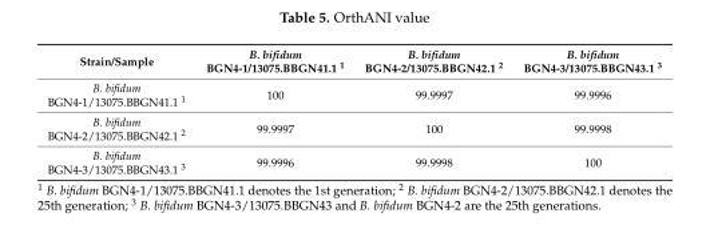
<table><thead><tr><td>Strain/Sample</td><td>B. bifidum BGN4-1/13075.BBGN41.1 <sup>1</sup></td><td>B. bifidum BGN4-2/13075.BBGN42.1 <sup>2</sup></td><td>B. bifidum BGN4-3/13075.BBGN43.1 <sup>3</sup></td></tr></thead><tbody><tr><td>B. bifidum BGN4-1/13075.BBGN41.1 <sup>1</sup></td><td>100</td><td>99.9997</td><td>99.9996</td></tr><tr><td>B. bifidum BGN4-2/13075.BBGN42.1 <sup>2</sup></td><td>99.9997</td><td>100</td><td>99.9998</td></tr><tr><td>B. bifidum BGN4-3/13075.BBGN43.1 <sup>3</sup></td><td>99.9996</td><td>99.9998</td><td>100</td></tr></tbody></table>